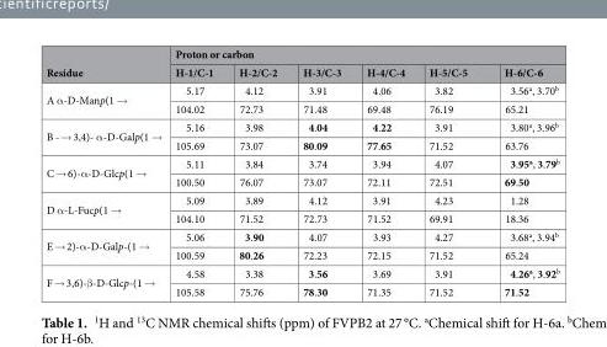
<table><thead><tr><td rowspan="2">Residue</td><td colspan="6">Proton or carbon</td></tr><tr><td>H-1/C-1</td><td>H-2/C-2</td><td>H-3/C-3</td><td>H-4/C-4</td><td>H-5/C-5</td><td>H-6/C-6</td></tr></thead><tbody><tr><td rowspan="2">A α-D-Manp(1 →</td><td>5.17</td><td>4.12</td><td>3.91</td><td>4.06</td><td>3.82</td><td>3.56<sup>a</sup>, 3.70<sup>b</sup></td></tr><tr><td>104.02</td><td>72.73</td><td>71.48</td><td>69.48</td><td>76.19</td><td>65.21</td></tr><tr><td rowspan="2">B - → 3,4)- α-D-Galp(1 →</td><td>5.16</td><td>3.98</td><td>4.04</td><td>4.22</td><td>3.91</td><td>3.80<sup>a</sup>, 3.96<sup>b</sup></td></tr><tr><td>105.69</td><td>73.07</td><td>80.09</td><td>77.65</td><td>71.52</td><td>63.76</td></tr><tr><td rowspan="2">C → 6)-α-D-Glcp(1 →</td><td>5.11</td><td>3.84</td><td>3.74</td><td>3.94</td><td>4.07</td><td>3.95<sup>a</sup>, 3.79<sup>b</sup></td></tr><tr><td>100.50</td><td>76.07</td><td>73.07</td><td>72.11</td><td>72.51</td><td>69.50</td></tr><tr><td rowspan="2">D α-L-Fucp(1 →</td><td>5.09</td><td>3.89</td><td>4.12</td><td>3.91</td><td>4.23</td><td>1.28</td></tr><tr><td>104.10</td><td>71.52</td><td>72.73</td><td>71.52</td><td>69.91</td><td>18.36</td></tr><tr><td rowspan="2">E → 2)-α-D-Galp-(1 →</td><td>5.06</td><td>3.90</td><td>4.07</td><td>3.93</td><td>4.27</td><td>3.68<sup>a</sup>, 3.94<sup>b</sup></td></tr><tr><td>100.59</td><td>80.26</td><td>72.23</td><td>72.15</td><td>71.52</td><td>65.24</td></tr><tr><td rowspan="2">F → 3,6)-β-D-Glcp-(1 →</td><td>4.58</td><td>3.38</td><td>3.56</td><td>3.69</td><td>3.91</td><td>4.26<sup>a</sup>, 3.92<sup>b</sup></td></tr><tr><td>105.58</td><td>75.76</td><td>78.30</td><td>71.35</td><td>71.52</td><td>71.52</td></tr></tbody></table>